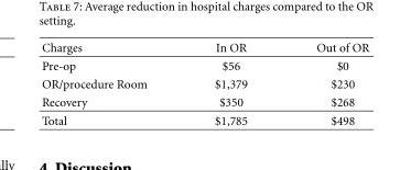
<table><thead><tr><td>Charges</td><td>In OR</td><td>Out of OR</td></tr></thead><tbody><tr><td>Pre-op</td><td>$56</td><td>$0</td></tr><tr><td>OR/procedure Room</td><td>$1,379</td><td>$230</td></tr><tr><td>Recovery</td><td>$350</td><td>$268</td></tr><tr><td>Total</td><td>$1,785</td><td>$498</td></tr></tbody></table>